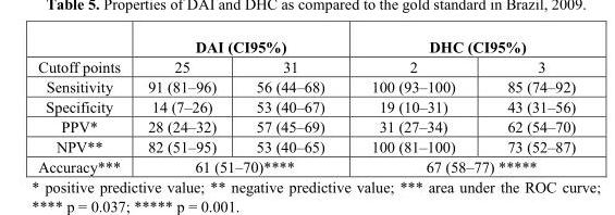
<table><thead><tr><td rowspan="2">Cutoff points</td><td colspan="2">DAI (CI95%)</td><td colspan="2">DHC (CI95%)</td></tr><tr><td>25</td><td>31</td><td>2</td><td>3</td></tr></thead><tbody><tr><td>Sensitivity</td><td>91 (81–96)</td><td>56 (44–68)</td><td>100 (93–100)</td><td>85 (74–92)</td></tr><tr><td>Specificity</td><td>14 (7–26)</td><td>53 (40–67)</td><td>19 (10–31)</td><td>43 (31–56)</td></tr><tr><td>PPV*</td><td>28 (24–32)</td><td>57 (45–69)</td><td>31 (27–34)</td><td>62 (54–70)</td></tr><tr><td>NPV**</td><td>82 (51–95)</td><td>53 (40–65)</td><td>100 (81–100)</td><td>73 (52–87)</td></tr><tr><td>Accuracy***</td><td colspan="2">61 (51–70)****</td><td colspan="2">67 (58–77) *****</td></tr></tbody></table>